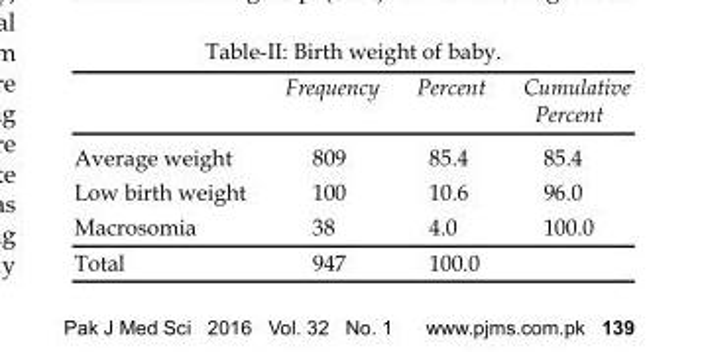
<table><thead><tr><td></td><td>Frequency</td><td>Percent</td><td>Cumulative Percent</td></tr></thead><tbody><tr><td>Average weight</td><td>809</td><td>85.4</td><td>85.4</td></tr><tr><td>Low birth weight</td><td>100</td><td>10.6</td><td>96.0</td></tr><tr><td>Macrosomia</td><td>38</td><td>4.0</td><td>100.0</td></tr><tr><td>Total</td><td>947</td><td>100.0</td><td></td></tr></tbody></table>